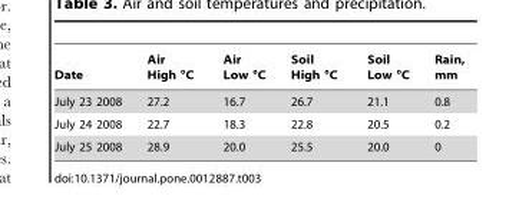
<table><thead><tr><td>Date</td><td>Air High °C</td><td>Air Low °C</td><td>Soil High °C</td><td>Soil Low °C</td><td>Rain, mm</td></tr></thead><tbody><tr><td>July 23 2008</td><td>27.2</td><td>16.7</td><td>26.7</td><td>21.1</td><td>0.8</td></tr><tr><td>July 24 2008</td><td>22.7</td><td>18.3</td><td>22.8</td><td>20.5</td><td>0.2</td></tr><tr><td>July 25 2008</td><td>28.9</td><td>20.0</td><td>25.5</td><td>20.0</td><td>0</td></tr></tbody></table>